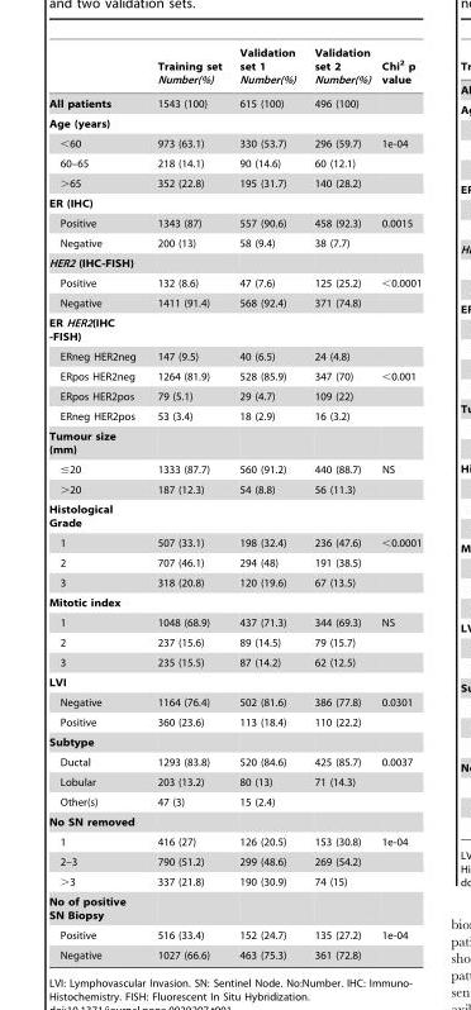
<table><thead><tr><td></td><td>Training set Number(%)</td><td>Validation set 1 Number(%)</td><td>Validation set 2 Number(%)</td><td>Chi<sup>2</sup> p value</td></tr></thead><tbody><tr><td>All patients</td><td>1543 (100)</td><td>615 (100)</td><td>496 (100)</td><td></td></tr><tr><td colspan="5">Age (years)</td></tr><tr><td>&lt;60</td><td>973 (63.1)</td><td>330 (53.7)</td><td>296 (59.7)</td><td>1e-04</td></tr><tr><td>60–65</td><td>218 (14.1)</td><td>90 (14.6)</td><td>60 (12.1)</td><td></td></tr><tr><td>&gt;65</td><td>352 (22.8)</td><td>195 (31.7)</td><td>140 (28.2)</td><td></td></tr><tr><td colspan="5">ER (IHC)</td></tr><tr><td>Positive</td><td>1343 (87)</td><td>557 (90.6)</td><td>458 (92.3)</td><td>0.0015</td></tr><tr><td>Negative</td><td>200 (13)</td><td>58 (9.4)</td><td>38 (7.7)</td><td></td></tr><tr><td colspan="5">HER2 (IHC-FISH)</td></tr><tr><td>Positive</td><td>132 (8.6)</td><td>47 (7.6)</td><td>125 (25.2)</td><td>&lt;0.0001</td></tr><tr><td>Negative</td><td>1411 (91.4)</td><td>568 (92.4)</td><td>371 (74.8)</td><td></td></tr><tr><td colspan="5">ER HER2(IHC -FISH)</td></tr><tr><td>ERneg HER2neg</td><td>147 (9.5)</td><td>40 (6.5)</td><td>24 (4.8)</td><td></td></tr><tr><td>ERpos HER2neg</td><td>1264 (81.9)</td><td>528 (85.9)</td><td>347 (70)</td><td>&lt;0.001</td></tr><tr><td>ERpos HER2pos</td><td>79 (5.1)</td><td>29 (4.7)</td><td>109 (22)</td><td></td></tr><tr><td>ERneg HER2pos</td><td>53 (3.4)</td><td>18 (2.9)</td><td>16 (3.2)</td><td></td></tr><tr><td colspan="5">Tumour size (mm)</td></tr><tr><td>≤20</td><td>1333 (87.7)</td><td>560 (91.2)</td><td>440 (88.7)</td><td>NS</td></tr><tr><td>&gt;20</td><td>187 (12.3)</td><td>54 (8.8)</td><td>56 (11.3)</td><td></td></tr><tr><td colspan="5">Histological Grade</td></tr><tr><td>1</td><td>507 (33.1)</td><td>198 (32.4)</td><td>236 (47.6)</td><td>&lt;0.0001</td></tr><tr><td>2</td><td>707 (46.1)</td><td>294 (48)</td><td>191 (38.5)</td><td></td></tr><tr><td>3</td><td>318 (20.8)</td><td>120 (19.6)</td><td>67 (13.5)</td><td></td></tr><tr><td colspan="5">Mitotic index</td></tr><tr><td>1</td><td>1048 (68.9)</td><td>437 (71.3)</td><td>344 (69.3)</td><td>NS</td></tr><tr><td>2</td><td>237 (15.6)</td><td>89 (14.5)</td><td>79 (15.7)</td><td></td></tr><tr><td>3</td><td>235 (15.5)</td><td>87 (14.2)</td><td>62 (12.5)</td><td></td></tr><tr><td colspan="5">LVI</td></tr><tr><td>Negative</td><td>1164 (76.4)</td><td>502 (81.6)</td><td>386 (77.8)</td><td>0.0301</td></tr><tr><td>Positive</td><td>360 (23.6)</td><td>113 (18.4)</td><td>110 (22.2)</td><td></td></tr><tr><td colspan="5">Subtype</td></tr><tr><td>Ductal</td><td>1293 (83.8)</td><td>520 (84.6)</td><td>425 (85.7)</td><td>0.0037</td></tr><tr><td>Lobular</td><td>203 (13.2)</td><td>80 (13)</td><td>71 (14.3)</td><td></td></tr><tr><td>Other(s)</td><td>47 (3)</td><td>15 (2.4)</td><td></td><td></td></tr><tr><td colspan="5">No SN removed</td></tr><tr><td>1</td><td>416 (27)</td><td>126 (20.5)</td><td>153 (30.8)</td><td>1e-04</td></tr><tr><td>2–3</td><td>790 (51.2)</td><td>299 (48.6)</td><td>269 (54.2)</td><td></td></tr><tr><td>&gt;3</td><td>337 (21.8)</td><td>190 (30.9)</td><td>74 (15)</td><td></td></tr><tr><td colspan="5">No of positive SN Biopsy</td></tr><tr><td>Positive</td><td>516 (33.4)</td><td>152 (24.7)</td><td>135 (27.2)</td><td>1e-04</td></tr><tr><td>Negative</td><td>1027 (66.6)</td><td>463 (75.3)</td><td>361 (72.8)</td><td></td></tr></tbody></table>